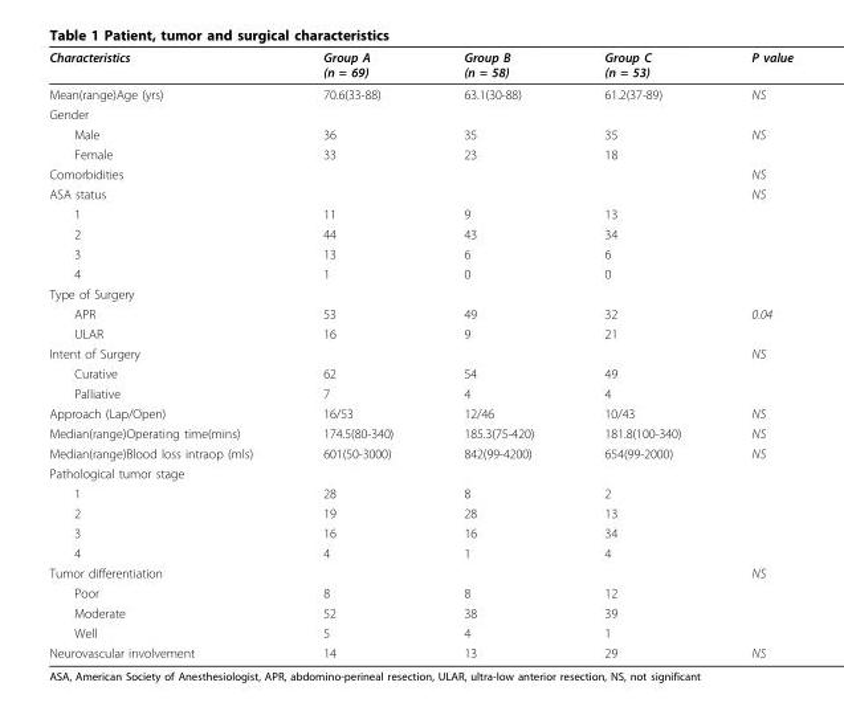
<table><thead><tr><td>Characteristics</td><td>Group A (n = 69)</td><td>Group B (n = 58)</td><td>Group C (n = 53)</td><td>P value</td></tr></thead><tbody><tr><td>Mean(range)Age (yrs)</td><td>70.6(33-88)</td><td>63.1(30-88)</td><td>61.2(37-89)</td><td>NS</td></tr><tr><td colspan="5">Gender</td></tr><tr><td>Male</td><td>36</td><td>35</td><td>35</td><td>NS</td></tr><tr><td>Female</td><td>33</td><td>23</td><td>18</td><td></td></tr><tr><td>Comorbidities</td><td></td><td></td><td></td><td>NS</td></tr><tr><td>ASA status</td><td></td><td></td><td></td><td>NS</td></tr><tr><td>1</td><td>11</td><td>9</td><td>13</td><td></td></tr><tr><td>2</td><td>44</td><td>43</td><td>34</td><td></td></tr><tr><td>3</td><td>13</td><td>6</td><td>6</td><td></td></tr><tr><td>4</td><td>1</td><td>0</td><td>0</td><td></td></tr><tr><td colspan="5">Type of Surgery</td></tr><tr><td>APR</td><td>53</td><td>49</td><td>32</td><td>0.04</td></tr><tr><td>ULAR</td><td>16</td><td>9</td><td>21</td><td></td></tr><tr><td>Intent of Surgery</td><td></td><td></td><td></td><td>NS</td></tr><tr><td>Curative</td><td>62</td><td>54</td><td>49</td><td></td></tr><tr><td>Palliative</td><td>7</td><td>4</td><td>4</td><td></td></tr><tr><td>Approach (Lap/Open)</td><td>16/53</td><td>12/46</td><td>10/43</td><td>NS</td></tr><tr><td>Median(range)Operating time(mins)</td><td>174.5(80-340)</td><td>185.3(75-420)</td><td>181.8(100-340)</td><td>NS</td></tr><tr><td>Median(range)Blood loss intraop (mls)</td><td>601(50-3000)</td><td>842(99-4200)</td><td>654(99-2000)</td><td>NS</td></tr><tr><td colspan="5">Pathological tumor stage</td></tr><tr><td>1</td><td>28</td><td>8</td><td>2</td><td></td></tr><tr><td>2</td><td>19</td><td>28</td><td>13</td><td></td></tr><tr><td>3</td><td>16</td><td>16</td><td>34</td><td></td></tr><tr><td>4</td><td>4</td><td>1</td><td>4</td><td></td></tr><tr><td>Tumor differentiation</td><td></td><td></td><td></td><td>NS</td></tr><tr><td>Poor</td><td>8</td><td>8</td><td>12</td><td></td></tr><tr><td>Moderate</td><td>52</td><td>38</td><td>39</td><td></td></tr><tr><td>Well</td><td>5</td><td>4</td><td>1</td><td></td></tr><tr><td>Neurovascular involvement</td><td>14</td><td>13</td><td>29</td><td>NS</td></tr></tbody></table>